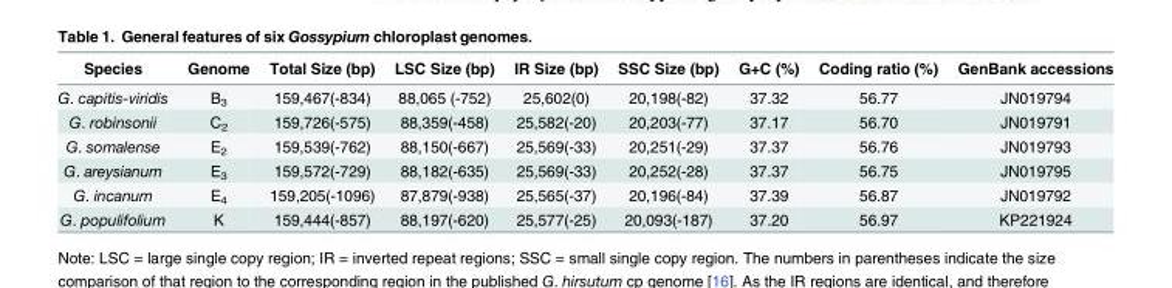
<table><thead><tr><td>Species</td><td>Genome</td><td>Total Size (bp)</td><td>LSC Size (bp)</td><td>IR Size (bp)</td><td>SSC Size (bp)</td><td>G+C (%)</td><td>Coding ratio (%)</td><td>GenBank accessions</td></tr></thead><tbody><tr><td>G. capitis-viridis</td><td>B<sub>3</sub></td><td>159,467(-834)</td><td>88,065 (-752)</td><td>25,602(0)</td><td>20,198(-82)</td><td>37.32</td><td>56.77</td><td>JN019794</td></tr><tr><td>G. robinsonii</td><td>C<sub>2</sub></td><td>159,726(-575)</td><td>88,359(-458)</td><td>25,582(-20)</td><td>20,203(-77)</td><td>37.17</td><td>56.70</td><td>JN019791</td></tr><tr><td>G. somalense</td><td>E<sub>2</sub></td><td>159,539(-762)</td><td>88,150(-667)</td><td>25,569(-33)</td><td>20,251(-29)</td><td>37.37</td><td>56.76</td><td>JN019793</td></tr><tr><td>G. areysianum</td><td>E<sub>3</sub></td><td>159,572(-729)</td><td>88,182(-635)</td><td>25,569(-33)</td><td>20,252(-28)</td><td>37.37</td><td>56.75</td><td>JN019795</td></tr><tr><td>G. incanum</td><td>E<sub>4</sub></td><td>159,205(-1096)</td><td>87,879(-938)</td><td>25,565(-37)</td><td>20,196(-84)</td><td>37.39</td><td>56.87</td><td>JN019792</td></tr><tr><td>G. populifolium</td><td>K</td><td>159,444(-857)</td><td>88,197(-620)</td><td>25,577(-25)</td><td>20,093(-187)</td><td>37.20</td><td>56.97</td><td>KP221924</td></tr></tbody></table>